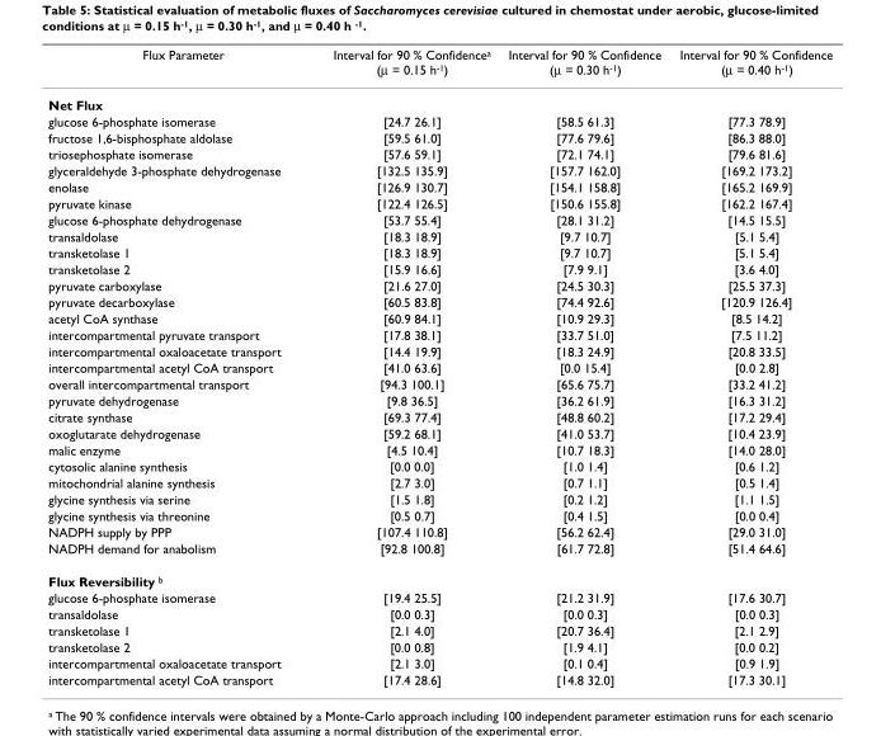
<table><thead><tr><td>Flux Parameter</td><td>Interval for 90 % Confidencea (µ = 0.15 h-1)</td><td>Interval for 90 % Confidence (µ = 0.30 h-1)</td><td>Interval for 90 % Confidence (µ = 0.40 h-1)</td></tr></thead><tbody><tr><td colspan="4">Net Flux</td></tr><tr><td>glucose 6-phosphate isomerase</td><td>[24.7 26.1]</td><td>[58.5 61.3]</td><td>[77.3 78.9]</td></tr><tr><td>fructose 1,6-bisphosphate aldolase</td><td>[59.5 61.0]</td><td>[77.6 79.6]</td><td>[86.3 88.0]</td></tr><tr><td>triosephosphate isomerase</td><td>[57.6 59.1]</td><td>[72.1 74.1]</td><td>[79.6 81.6]</td></tr><tr><td>glyceraldehyde 3-phosphate dehydrogenase</td><td>[132.5 135.9]</td><td>[157.7 162.0]</td><td>[169.2 173.2]</td></tr><tr><td>enolase</td><td>[126.9 130.7]</td><td>[154.1 158.8]</td><td>[165.2 169.9]</td></tr><tr><td>pyruvate kinase</td><td>[122.4 126.5]</td><td>[150.6 155.8]</td><td>[162.2 167.4]</td></tr><tr><td>glucose 6-phosphate dehydrogenase</td><td>[53.7 55.4]</td><td>[28.1 31.2]</td><td>[14.5 15.5]</td></tr><tr><td>transaldolase</td><td>[18.3 18.9]</td><td>[9.7 10.7]</td><td>[5.1 5.4]</td></tr><tr><td>transketolase 1</td><td>[18.3 18.9]</td><td>[9.7 10.7]</td><td>[5.1 5.4]</td></tr><tr><td>transketolase 2</td><td>[15.9 16.6]</td><td>[7.9 9.1]</td><td>[3.6 4.0]</td></tr><tr><td>pyruvate carboxylase</td><td>[21.6 27.0]</td><td>[24.5 30.3]</td><td>[25.5 37.3]</td></tr><tr><td>pyruvate decarboxylase</td><td>[60.5 83.8]</td><td>[74.4 92.6]</td><td>[120.9 126.4]</td></tr><tr><td>acetyl CoA synthase</td><td>[60.9 84.1]</td><td>[10.9 29.3]</td><td>[8.5 14.2]</td></tr><tr><td>intercompartmental pyruvate transport</td><td>[17.8 38.1]</td><td>[33.7 51.0]</td><td>[7.5 11.2]</td></tr><tr><td>intercompartmental oxaloacetate transport</td><td>[14.4 19.9]</td><td>[18.3 24.9]</td><td>[20.8 33.5]</td></tr><tr><td>intercompartmental acetyl CoA transport</td><td>[41.0 63.6]</td><td>[0.0 15.4]</td><td>[0.0 2.8]</td></tr><tr><td>overall intercompartmental transport</td><td>[94.3 100.1]</td><td>[65.6 75.7]</td><td>[33.2 41.2]</td></tr><tr><td>pyruvate dehydrogenase</td><td>[9.8 36.5]</td><td>[36.2 61.9]</td><td>[16.3 31.2]</td></tr><tr><td>citrate synthase</td><td>[69.3 77.4]</td><td>[48.8 60.2]</td><td>[17.2 29.4]</td></tr><tr><td>oxoglutarate dehydrogenase</td><td>[59.2 68.1]</td><td>[41.0 53.7]</td><td>[10.4 23.9]</td></tr><tr><td>malic enzyme</td><td>[4.5 10.4]</td><td>[10.7 18.3]</td><td>[14.0 28.0]</td></tr><tr><td>cytosolic alanine synthesis</td><td>[0.0 0.0]</td><td>[1.0 1.4]</td><td>[0.6 1.2]</td></tr><tr><td>mitochondrial alanine synthesis</td><td>[2.7 3.0]</td><td>[0.7 1.1]</td><td>[0.5 1.4]</td></tr><tr><td>glycine synthesis via serine</td><td>[1.5 1.8]</td><td>[0.2 1.2]</td><td>[1.1 1.5]</td></tr><tr><td>glycine synthesis via threonine</td><td>[0.5 0.7]</td><td>[0.4 1.5]</td><td>[0.0 0.4]</td></tr><tr><td>NADPH supply by PPP</td><td>[107.4 110.8]</td><td>[56.2 62.4]</td><td>[29.0 31.0]</td></tr><tr><td>NADPH demand for anabolism</td><td>[92.8 100.8]</td><td>[61.7 72.8]</td><td>[51.4 64.6]</td></tr><tr><td colspan="4">Flux Reversibility b</td></tr><tr><td>glucose 6-phosphate isomerase</td><td>[19.4 25.5]</td><td>[21.2 31.9]</td><td>[17.6 30.7]</td></tr><tr><td>transaldolase</td><td>[0.0 0.3]</td><td>[0.0 0.3]</td><td>[0.0 0.3]</td></tr><tr><td>transketolase 1</td><td>[2.1 4.0]</td><td>[20.7 36.4]</td><td>[2.1 2.9]</td></tr><tr><td>transketolase 2</td><td>[0.0 0.8]</td><td>[1.9 4.1]</td><td>[0.0 0.2]</td></tr><tr><td>intercompartmental oxaloacetate transport</td><td>[2.1 3.0]</td><td>[0.1 0.4]</td><td>[0.9 1.9]</td></tr><tr><td>intercompartmental acetyl CoA transport</td><td>[17.4 28.6]</td><td>[14.8 32.0]</td><td>[17.3 30.1]</td></tr></tbody></table>